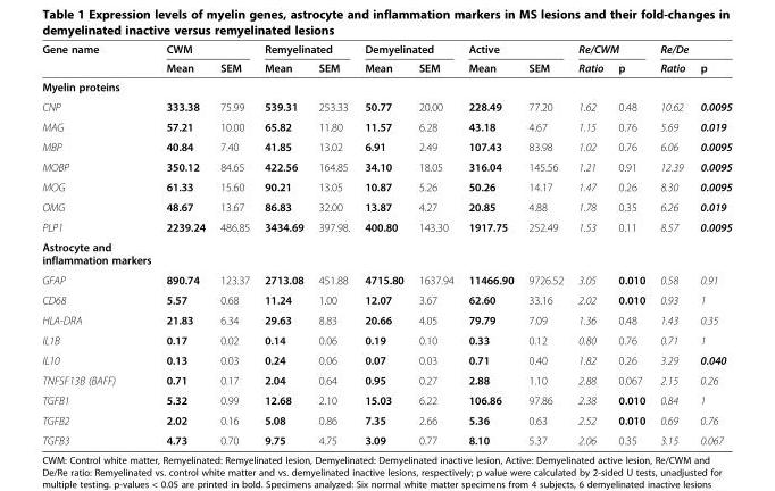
<table><thead><tr><td rowspan="2">Gene name</td><td colspan="2">CWM</td><td colspan="2">Remyelinated</td><td colspan="2">Demyelinated</td><td colspan="2">Active</td><td colspan="2">Re/CWM</td><td colspan="2">Re/De</td></tr><tr><td>Mean</td><td>SEM</td><td>Mean</td><td>SEM</td><td>Mean</td><td>SEM</td><td>Mean</td><td>SEM</td><td>Ratio</td><td>p</td><td>Ratio</td><td>p</td></tr></thead><tbody><tr><td colspan="13">Myelin proteins</td></tr><tr><td>CNP</td><td>333.38</td><td>75.99</td><td>539.31</td><td>253.33</td><td>50.77</td><td>20.00</td><td>228.49</td><td>77.20</td><td>1.62</td><td>0.48</td><td>10.62</td><td>0.0095</td></tr><tr><td>MAG</td><td>57.21</td><td>10.00</td><td>65.82</td><td>11.80</td><td>11.57</td><td>6.28</td><td>43.18</td><td>4.67</td><td>1.15</td><td>0.76</td><td>5.69</td><td>0.019</td></tr><tr><td>MBP</td><td>40.84</td><td>7.40</td><td>41.85</td><td>13.02</td><td>6.91</td><td>2.49</td><td>107.43</td><td>83.98</td><td>1.02</td><td>0.76</td><td>6.06</td><td>0.0095</td></tr><tr><td>MOBP</td><td>350.12</td><td>84.65</td><td>422.56</td><td>164.85</td><td>34.10</td><td>18.05</td><td>316.04</td><td>145.56</td><td>1.21</td><td>0.91</td><td>12.39</td><td>0.0095</td></tr><tr><td>MOG</td><td>61.33</td><td>15.60</td><td>90.21</td><td>13.05</td><td>10.87</td><td>5.26</td><td>50.26</td><td>14.17</td><td>1.47</td><td>0.26</td><td>8.30</td><td>0.0095</td></tr><tr><td>OMG</td><td>48.67</td><td>13.67</td><td>86.83</td><td>32.00</td><td>13.87</td><td>4.27</td><td>20.85</td><td>4.88</td><td>1.78</td><td>0.35</td><td>6.26</td><td>0.019</td></tr><tr><td>PLP1</td><td>2239.24</td><td>486.85</td><td>3434.69</td><td>397.98.</td><td>400.80</td><td>143.30</td><td>1917.75</td><td>252.49</td><td>1.53</td><td>0.11</td><td>8.57</td><td>0.0095</td></tr><tr><td colspan="13">Astrocyte and inflammation markers</td></tr><tr><td>GFAP</td><td>890.74</td><td>123.37</td><td>2713.08</td><td>451.88</td><td>4715.80</td><td>1637.94</td><td>11466.90</td><td>9726.52</td><td>3.05</td><td>0.010</td><td>0.58</td><td>0.91</td></tr><tr><td>CD68</td><td>5.57</td><td>0.68</td><td>11.24</td><td>1.00</td><td>12.07</td><td>3.67</td><td>62.60</td><td>33.16</td><td>2.02</td><td>0.010</td><td>0.93</td><td>1</td></tr><tr><td>HLA-DRA</td><td>21.83</td><td>6.34</td><td>29.63</td><td>8.83</td><td>20.66</td><td>4.05</td><td>79.79</td><td>7.09</td><td>1.36</td><td>0.48</td><td>1.43</td><td>0.35</td></tr><tr><td>IL1B</td><td>0.17</td><td>0.02</td><td>0.14</td><td>0.06</td><td>0.19</td><td>0.10</td><td>0.33</td><td>0.12</td><td>0.80</td><td>0.76</td><td>0.71</td><td>1</td></tr><tr><td>IL10</td><td>0.13</td><td>0.03</td><td>0.24</td><td>0.06</td><td>0.07</td><td>0.03</td><td>0.71</td><td>0.40</td><td>1.82</td><td>0.26</td><td>3.29</td><td>0.040</td></tr><tr><td>TNFSF13B (BAFF)</td><td>0.71</td><td>0.17</td><td>2.04</td><td>0.64</td><td>0.95</td><td>0.27</td><td>2.88</td><td>1.10</td><td>2.88</td><td>0.067</td><td>2.15</td><td>0.26</td></tr><tr><td>TGFB1</td><td>5.32</td><td>0.99</td><td>12.68</td><td>2.10</td><td>15.03</td><td>6.22</td><td>106.86</td><td>97.86</td><td>2.38</td><td>0.010</td><td>0.84</td><td>1</td></tr><tr><td>TGFB2</td><td>2.02</td><td>0.16</td><td>5.08</td><td>0.86</td><td>7.35</td><td>2.66</td><td>5.36</td><td>0.63</td><td>2.52</td><td>0.010</td><td>0.69</td><td>0.76</td></tr><tr><td>TGFB3</td><td>4.73</td><td>0.70</td><td>9.75</td><td>4.75</td><td>3.09</td><td>0.77</td><td>8.10</td><td>5.37</td><td>2.06</td><td>0.35</td><td>3.15</td><td>0.067</td></tr></tbody></table>